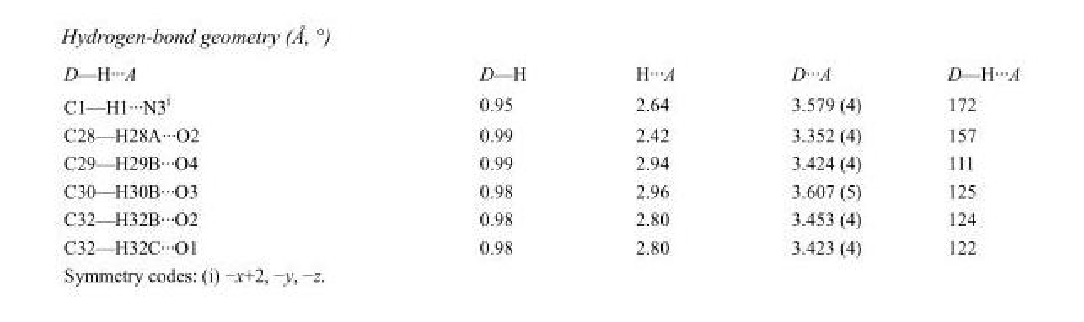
<table><tbody><tr><td>D—H···A</td><td>D—H</td><td>H···A</td><td>D···A</td><td>D—H···A</td></tr><tr><td>C1—H1···N3<sup>i</sup></td><td>0.95</td><td>2.64</td><td>3.579 (4)</td><td>172</td></tr><tr><td>C28—H28A···O2</td><td>0.99</td><td>2.42</td><td>3.352 (4)</td><td>157</td></tr><tr><td>C29—H29B···O4</td><td>0.99</td><td>2.94</td><td>3.424 (4)</td><td>111</td></tr><tr><td>C30—H30B···O3</td><td>0.98</td><td>2.96</td><td>3.607 (5)</td><td>125</td></tr><tr><td>C32—H32B···O2</td><td>0.98</td><td>2.80</td><td>3.453 (4)</td><td>124</td></tr><tr><td>C32—H32C···O1</td><td>0.98</td><td>2.80</td><td>3.423 (4)</td><td>122</td></tr></tbody></table>